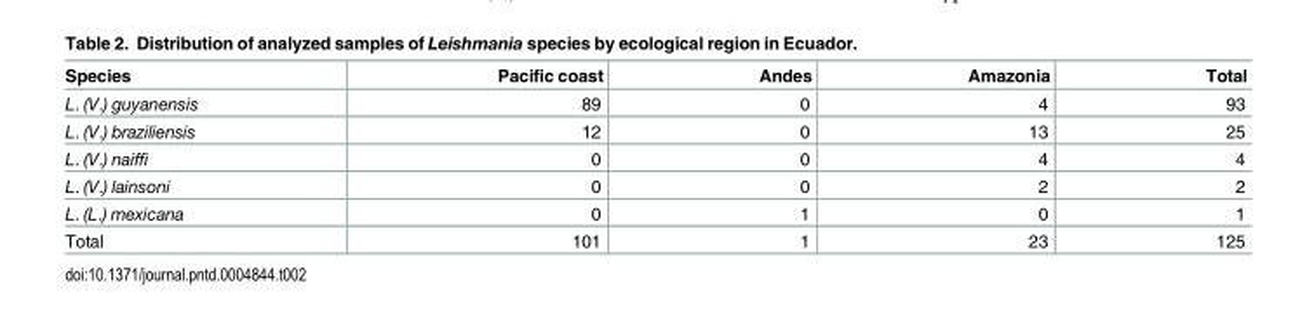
<table><thead><tr><td>Species</td><td>Pacific coast</td><td>Andes</td><td>Amazonia</td><td>Total</td></tr></thead><tbody><tr><td>L. (V.) guyanensis</td><td>89</td><td>0</td><td>4</td><td>93</td></tr><tr><td>L. (V.) braziliensis</td><td>12</td><td>0</td><td>13</td><td>25</td></tr><tr><td>L. (V.) naiffi</td><td>0</td><td>0</td><td>4</td><td>4</td></tr><tr><td>L. (V.) lainsoni</td><td>0</td><td>0</td><td>2</td><td>2</td></tr><tr><td>L. (L.) mexicana</td><td>0</td><td>1</td><td>0</td><td>1</td></tr><tr><td>Total</td><td>101</td><td>1</td><td>23</td><td>125</td></tr></tbody></table>